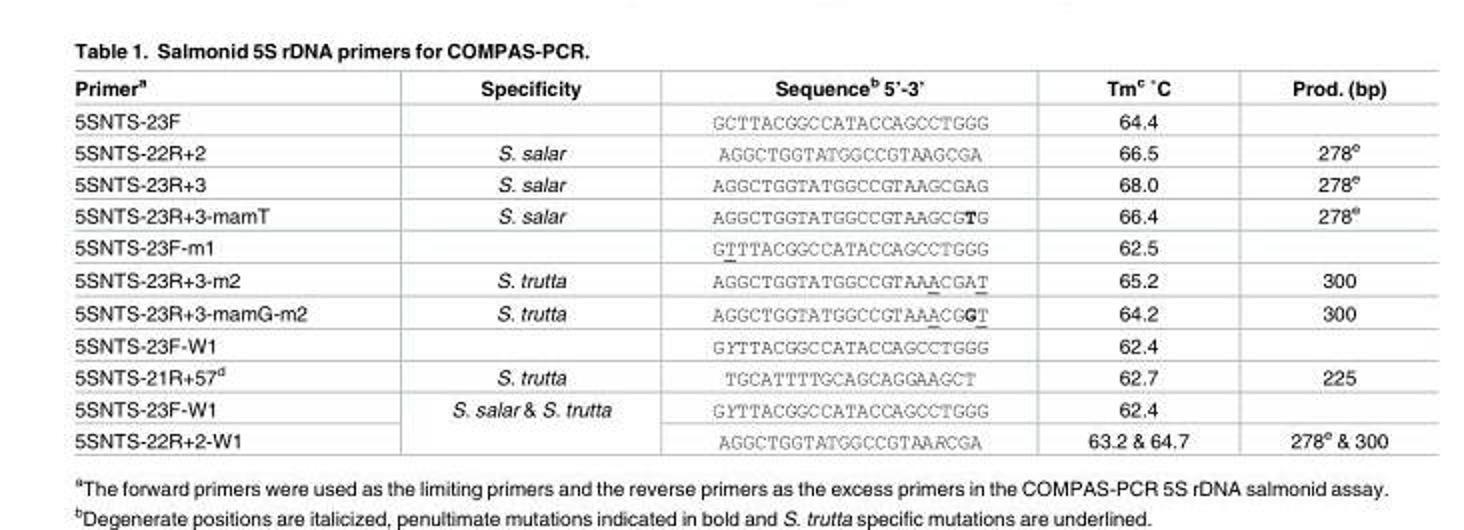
<table><thead><tr><td>Primer<sup>a</sup></td><td>Specificity</td><td>Sequence<sup>b</sup> 5’-3’</td><td>Tmc ˚C</td><td>Prod. (bp)</td></tr></thead><tbody><tr><td>5SNTS-23F</td><td></td><td>GCTTACGGCCATACCAGCCTGGG</td><td>64.4</td><td></td></tr><tr><td>5SNTS-22R+2</td><td>S. salar</td><td>AGGCTGGTATGGCCGTAAGCGA</td><td>66.5</td><td>278<sup>e</sup></td></tr><tr><td>5SNTS-23R+3</td><td>S. salar</td><td>AGGCTGGTATGGCCGTAAGCGAG</td><td>68.0</td><td>278<sup>e</sup></td></tr><tr><td>5SNTS-23R+3-mamT</td><td>S. salar</td><td>AGGCTGGTATGGCCGTAAGCGTG</td><td>66.4</td><td>278<sup>e</sup></td></tr><tr><td>5SNTS-23F-m1</td><td></td><td>GTTTACGGCCATACCAGCCTGGG</td><td>62.5</td><td></td></tr><tr><td>5SNTS-23R+3-m2</td><td>S. trutta</td><td>AGGCTGGTATGGCCGTAAACGAT</td><td>65.2</td><td>300</td></tr><tr><td>5SNTS-23R+3-mamG-m2</td><td>S. trutta</td><td>AGGCTGGTATGGCCGTAAACGGT</td><td>64.2</td><td>300</td></tr><tr><td>5SNTS-23F-W1</td><td></td><td>GYTTACGGCCATACCAGCCTGGG</td><td>62.4</td><td></td></tr><tr><td>5SNTS-21R+57<sup>d</sup></td><td>S. trutta</td><td>TGCATTTTGCAGCAGGAAGCT</td><td>62.7</td><td>225</td></tr><tr><td>5SNTS-23F-W1</td><td rowspan="2">S. salar &amp; S. trutta</td><td>GYTTACGGCCATACCAGCCTGGG</td><td>62.4</td><td></td></tr><tr><td>5SNTS-22R+2-W1</td><td>AGGCTGGTATGGCCGTAARCGA</td><td>63.2 &amp; 64.7</td><td>278<sup>e</sup> &amp; 300</td></tr></tbody></table>